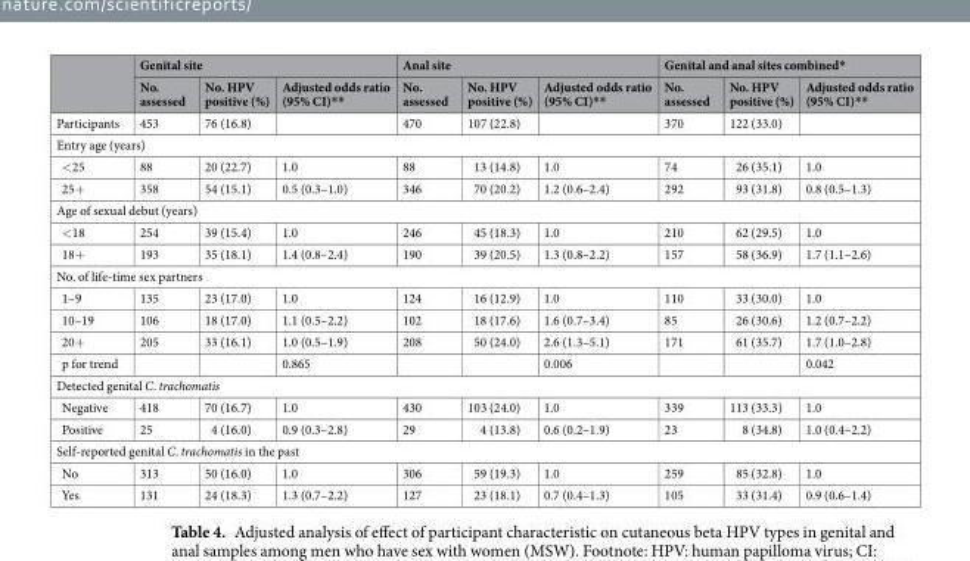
<table><thead><tr><td rowspan="2"></td><td colspan="3">Genital site</td><td colspan="3">Anal site</td><td colspan="3">Genital and anal sites combined*</td></tr><tr><td>No. assessed</td><td>No. HPV positive (%)</td><td>Adjusted odds ratio (95% CI)**</td><td>No. assessed</td><td>No. HPV positive (%)</td><td>Adjusted odds ratio (95% CI)**</td><td>No. assessed</td><td>No. HPV positive (%)</td><td>Adjusted odds ratio (95% CI)**</td></tr></thead><tbody><tr><td>Participants</td><td>453</td><td>76 (16.8)</td><td></td><td>470</td><td>107 (22.8)</td><td></td><td>370</td><td>122 (33.0)</td><td></td></tr><tr><td colspan="10">Entry age (years)</td></tr><tr><td>&lt;25</td><td>88</td><td>20 (22.7)</td><td>1.0</td><td>88</td><td>13 (14.8)</td><td>1.0</td><td>74</td><td>26 (35.1)</td><td>1.0</td></tr><tr><td>25+</td><td>358</td><td>54 (15.1)</td><td>0.5 (0.3–1.0)</td><td>346</td><td>70 (20.2)</td><td>1.2 (0.6–2.4)</td><td>292</td><td>93 (31.8)</td><td>0.8 (0.5–1.3)</td></tr><tr><td colspan="10">Age of sexual debut (years)</td></tr><tr><td>&lt;18</td><td>254</td><td>39 (15.4)</td><td>1.0</td><td>246</td><td>45 (18.3)</td><td>1.0</td><td>210</td><td>62 (29.5)</td><td>1.0</td></tr><tr><td>18+</td><td>193</td><td>35 (18.1)</td><td>1.4 (0.8–2.4)</td><td>190</td><td>39 (20.5)</td><td>1.3 (0.8–2.2)</td><td>157</td><td>58 (36.9)</td><td>1.7 (1.1–2.6)</td></tr><tr><td colspan="10">No. of life-time sex partners</td></tr><tr><td>1–9</td><td>135</td><td>23 (17.0)</td><td>1.0</td><td>124</td><td>16 (12.9)</td><td>1.0</td><td>110</td><td>33 (30.0)</td><td>1.0</td></tr><tr><td>10–19</td><td>106</td><td>18 (17.0)</td><td>1.1 (0.5–2.2)</td><td>102</td><td>18 (17.6)</td><td>1.6 (0.7–3.4)</td><td>85</td><td>26 (30.6)</td><td>1.2 (0.7–2.2)</td></tr><tr><td>20+</td><td>205</td><td>33 (16.1)</td><td>1.0 (0.5–1.9)</td><td>208</td><td>50 (24.0)</td><td>2.6 (1.3–5.1)</td><td>171</td><td>61 (35.7)</td><td>1.7 (1.0–2.8)</td></tr><tr><td>p for trend</td><td></td><td></td><td>0.865</td><td></td><td></td><td>0.006</td><td></td><td></td><td>0.042</td></tr><tr><td colspan="10">Detected genital C. trachomatis</td></tr><tr><td>Negative</td><td>418</td><td>70 (16.7)</td><td>1.0</td><td>430</td><td>103 (24.0)</td><td>1.0</td><td>339</td><td>113 (33.3)</td><td>1.0</td></tr><tr><td>Positive</td><td>25</td><td>4 (16.0)</td><td>0.9 (0.3–2.8)</td><td>29</td><td>4 (13.8)</td><td>0.6 (0.2–1.9)</td><td>23</td><td>8 (34.8)</td><td>1.0 (0.4–2.2)</td></tr><tr><td colspan="10">Self-reported genital C. trachomatis in the past</td></tr><tr><td>No</td><td>313</td><td>50 (16.0)</td><td>1.0</td><td>306</td><td>59 (19.3)</td><td>1.0</td><td>259</td><td>85 (32.8)</td><td>1.0</td></tr><tr><td>Yes</td><td>131</td><td>24 (18.3)</td><td>1.3 (0.7–2.2)</td><td>127</td><td>23 (18.1)</td><td>0.7 (0.4–1.3)</td><td>105</td><td>33 (31.4)</td><td>0.9 (0.6–1.4)</td></tr></tbody></table>